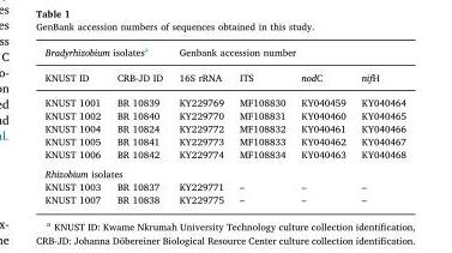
<table><thead><tr><td colspan="2">Bradyrhizobium isolates<sup>a</sup></td><td colspan="4">Genbank accession number</td></tr><tr><td>KNUST ID</td><td>CRB-JD ID</td><td>16S rRNA</td><td>ITS</td><td>nodC</td><td>nifH</td></tr></thead><tbody><tr><td>KNUST 1001</td><td>BR 10839</td><td>KY229769</td><td>MF108830</td><td>KY040459</td><td>KY040464</td></tr><tr><td>KNUST 1002</td><td>BR 10840</td><td>KY229770</td><td>MF108831</td><td>KY040460</td><td>KY040465</td></tr><tr><td>KNUST 1004</td><td>BR 10824</td><td>KY229772</td><td>MF108832</td><td>KY040461</td><td>KY040466</td></tr><tr><td>KNUST 1005</td><td>BR 10841</td><td>KY229773</td><td>MF108833</td><td>KY040462</td><td>KY040467</td></tr><tr><td>KNUST 1006</td><td>BR 10842</td><td>KY229774</td><td>MF108834</td><td>KY040463</td><td>KY040468</td></tr><tr><td colspan="6">Rhizobium isolates</td></tr><tr><td>KNUST 1003</td><td>BR 10837</td><td>KY229771</td><td>–</td><td>–</td><td>–</td></tr><tr><td>KNUST 1007</td><td>BR 10838</td><td>KY229775</td><td>–</td><td>–</td><td>–</td></tr></tbody></table>